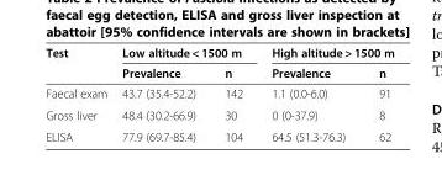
<table><thead><tr><td rowspan="2">Test</td><td colspan="2">Low altitude &lt; 1500 m</td><td colspan="2">High altitude &gt; 1500 m</td></tr><tr><td>Prevalence</td><td>n</td><td>Prevalence</td><td>n</td></tr></thead><tbody><tr><td>Faecal exam</td><td>43.7 (35.4-52.2)</td><td>142</td><td>1.1 (0.0-6.0)</td><td>91</td></tr><tr><td>Gross liver</td><td>48.4 (30.2-66.9)</td><td>30</td><td>0 (0-37.9)</td><td>8</td></tr><tr><td>ELISA</td><td>77.9 (69.7-85.4)</td><td>104</td><td>64.5 (51.3-76.3)</td><td>62</td></tr></tbody></table>